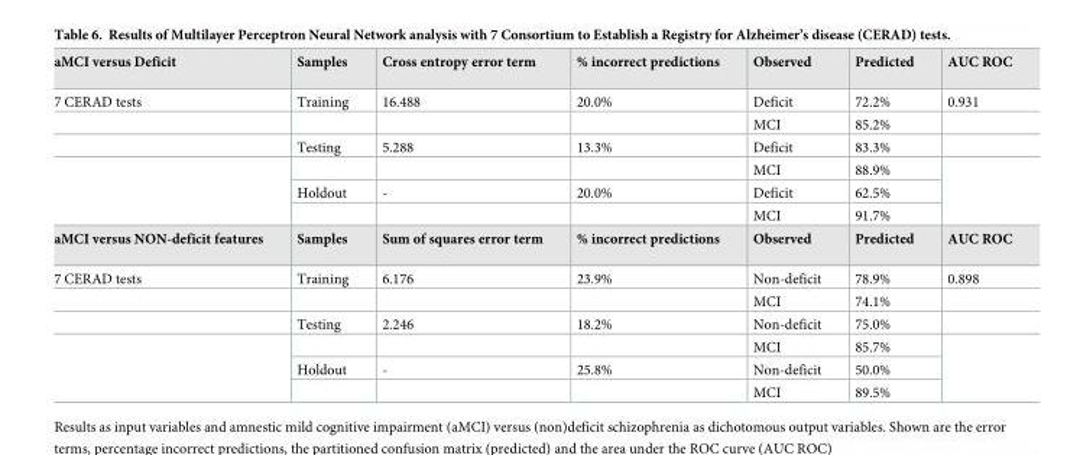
<table><tbody><tr><td>aMCI versus Deficit</td><td>Samples</td><td>Cross entropy error term</td><td>% incorrect predictions</td><td>Observed</td><td>Predicted</td><td>AUC ROC</td></tr><tr><td rowspan="6">7 CERAD tests</td><td>Training</td><td>16.488</td><td>20.0%</td><td>Deficit</td><td>72.2%</td><td>0.931</td></tr><tr><td></td><td></td><td></td><td>MCI</td><td>85.2%</td><td></td></tr><tr><td>Testing</td><td>5.288</td><td>13.3%</td><td>Deficit</td><td>83.3%</td><td></td></tr><tr><td></td><td></td><td></td><td>MCI</td><td>88.9%</td><td rowspan="3"></td></tr><tr><td>Holdout</td><td>-</td><td>20.0%</td><td>Deficit</td><td>62.5%</td></tr><tr><td></td><td></td><td></td><td>MCI</td><td>91.7%</td></tr><tr><td>aMCI versus NON-deficit features</td><td>Samples</td><td>Sum of squares error term</td><td>% incorrect predictions</td><td>Observed</td><td>Predicted</td><td>AUC ROC</td></tr><tr><td rowspan="6">7 CERAD tests</td><td>Training</td><td>6.176</td><td>23.9%</td><td>Non-deficit</td><td>78.9%</td><td>0.898</td></tr><tr><td></td><td></td><td></td><td>MCI</td><td>74.1%</td><td></td></tr><tr><td>Testing</td><td>2.246</td><td>18.2%</td><td>Non-deficit</td><td>75.0%</td><td></td></tr><tr><td></td><td></td><td></td><td>MCI</td><td>85.7%</td><td rowspan="3"></td></tr><tr><td>Holdout</td><td>-</td><td>25.8%</td><td>Non-deficit</td><td>50.0%</td></tr><tr><td></td><td></td><td></td><td>MCI</td><td>89.5%</td></tr></tbody></table>